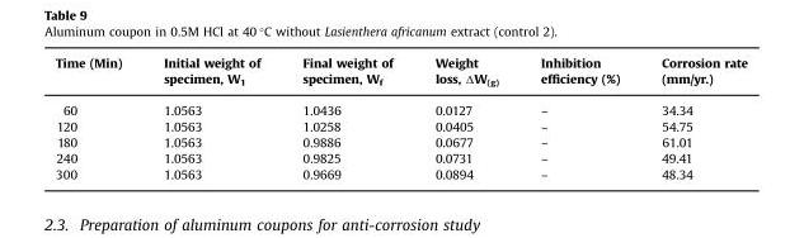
<table><thead><tr><td>Time (Min)</td><td>Initial weight of specimen, W<sub>1</sub></td><td>Final weight of specimen, W<sub>f</sub></td><td>Weight loss, ΔW(g)</td><td>Inhibition efficiency (%)</td><td>Corrosion rate (mm/yr.)</td></tr></thead><tbody><tr><td>60</td><td>1.0563</td><td>1.0436</td><td>0.0127</td><td>–</td><td>34.34</td></tr><tr><td>120</td><td>1.0563</td><td>1.0258</td><td>0.0405</td><td>–</td><td>54.75</td></tr><tr><td>180</td><td>1.0563</td><td>0.9886</td><td>0.0677</td><td>–</td><td>61.01</td></tr><tr><td>240</td><td>1.0563</td><td>0.9825</td><td>0.0731</td><td>–</td><td>49.41</td></tr><tr><td>300</td><td>1.0563</td><td>0.9669</td><td>0.0894</td><td>–</td><td>48.34</td></tr></tbody></table>